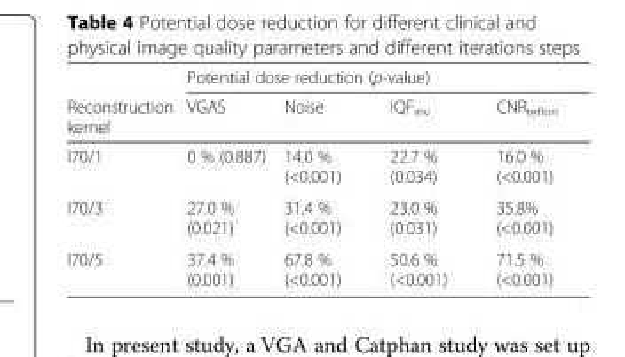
<table><thead><tr><td rowspan="2">Reconstruction kernel</td><td colspan="4">Potential dose reduction (p-value)</td></tr><tr><td>VGAS</td><td>Noise</td><td>IQF<sub>inv</sub></td><td>CNR<sub>teflon</sub></td></tr></thead><tbody><tr><td>I70/1</td><td>0 % (0.887)</td><td>14.0 % (&lt;0.001)</td><td>22.7 % (0.034)</td><td>16.0 % (&lt;0.001)</td></tr><tr><td>I70/3</td><td>27.0 % (0.021)</td><td>31.4 % (&lt;0.001)</td><td>23.0 % (0.031)</td><td>35.8% (&lt;0.001)</td></tr><tr><td>I70/5</td><td>37.4 % (0.001)</td><td>67.8 % (&lt;0.001)</td><td>50.6 % (&lt;0.001)</td><td>71.5 % (&lt;0.001)</td></tr></tbody></table>